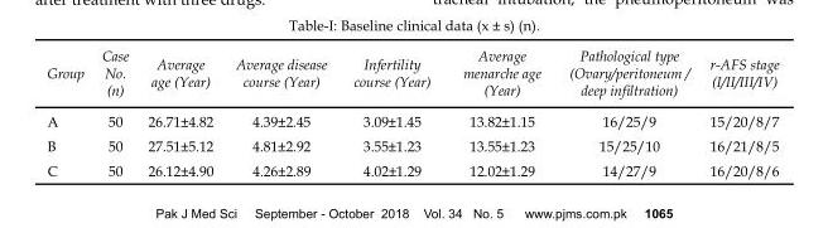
<table><thead><tr><td>Group</td><td>Case No. (n)</td><td>Average age (Year)</td><td>Average disease course (Year)</td><td>Infertility course (Year)</td><td>Average menarche age (Year)</td><td>Pathological type (Ovary/peritoneum / deep infiltration)</td><td>r-AFS stage (I/II/III/IV)</td></tr></thead><tbody><tr><td>A</td><td>50</td><td>26.71±4.82</td><td>4.39±2.45</td><td>3.09±1.45</td><td>13.82±1.15</td><td>16/25/9</td><td>15/20/8/7</td></tr><tr><td>B</td><td>50</td><td>27.51±5.12</td><td>4.81±2.92</td><td>3.55±1.23</td><td>13.55±1.23</td><td>15/25/10</td><td>16/21/8/5</td></tr><tr><td>C</td><td>50</td><td>26.12±4.90</td><td>4.26±2.89</td><td>4.02±1.29</td><td>12.02±1.29</td><td>14/27/9</td><td>16/20/8/6</td></tr></tbody></table>